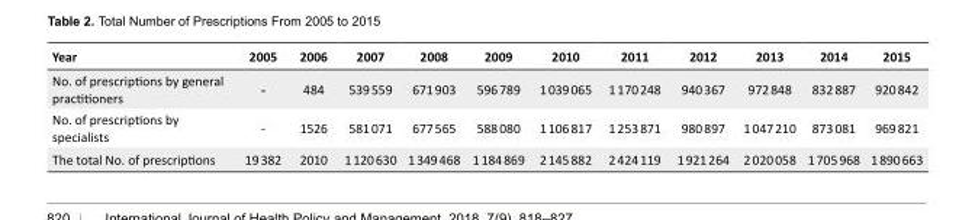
<table><tbody><tr><td>Year</td><td>2005</td><td>2006</td><td>2007</td><td>2008</td><td>2009</td><td>2010</td><td>2011</td><td>2012</td><td>2013</td><td>2014</td><td>2015</td></tr><tr><td>No. of prescriptions by general practitioners</td><td>-</td><td>484</td><td>539 559</td><td>671 903</td><td>596 789</td><td>1 039 065</td><td>1 170 248</td><td>940 367</td><td>972 848</td><td>832 887</td><td>920 842</td></tr><tr><td>No. of prescriptions by specialists</td><td>-</td><td>1526</td><td>581 071</td><td>677 565</td><td>588 080</td><td>1 106 817</td><td>1 253 871</td><td>980 897</td><td>1 047 210</td><td>873 081</td><td>969 821</td></tr><tr><td>The total No. of prescriptions</td><td>19 382</td><td>2010</td><td>1 120 630</td><td>1 349 468</td><td>1 184 869</td><td>2 145 882</td><td>2 424 119</td><td>1 921 264</td><td>2 020 058</td><td>1 705 968</td><td>1 890 663</td></tr></tbody></table>